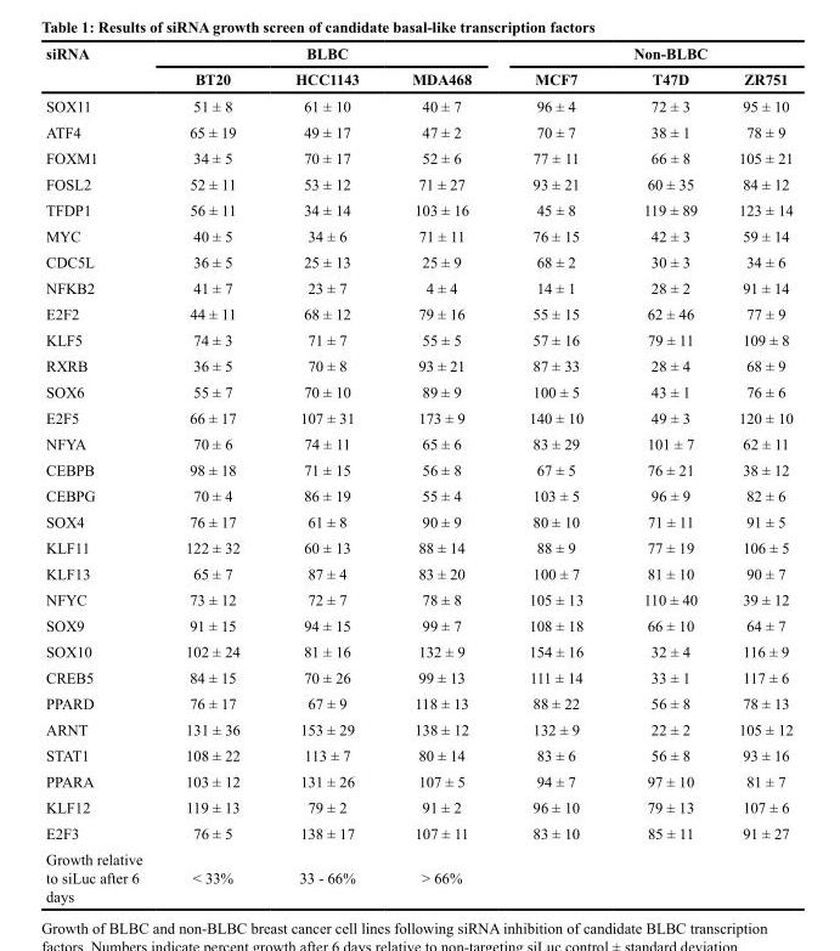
<table><thead><tr><td rowspan="2">siRNA</td><td colspan="3">BLBC</td><td colspan="3">Non-BLBC</td></tr><tr><td>BT20</td><td>HCC1143</td><td>MDA468</td><td>MCF7</td><td>T47D</td><td>ZR751</td></tr></thead><tbody><tr><td>SOX11</td><td>51 ± 8</td><td>61 ± 10</td><td>40 ± 7</td><td>96 ± 4</td><td>72 ± 3</td><td>95 ± 10</td></tr><tr><td>ATF4</td><td>65 ± 19</td><td>49 ± 17</td><td>47 ± 2</td><td>70 ± 7</td><td>38 ± 1</td><td>78 ± 9</td></tr><tr><td>FOXM1</td><td>34 ± 5</td><td>70 ± 17</td><td>52 ± 6</td><td>77 ± 11</td><td>66 ± 8</td><td>105 ± 21</td></tr><tr><td>FOSL2</td><td>52 ± 11</td><td>53 ± 12</td><td>71 ± 27</td><td>93 ± 21</td><td>60 ± 35</td><td>84 ± 12</td></tr><tr><td>TFDP1</td><td>56 ± 11</td><td>34 ± 14</td><td>103 ± 16</td><td>45 ± 8</td><td>119 ± 89</td><td>123 ± 14</td></tr><tr><td>MYC</td><td>40 ± 5</td><td>34 ± 6</td><td>71 ± 11</td><td>76 ± 15</td><td>42 ± 3</td><td>59 ± 14</td></tr><tr><td>CDC5L</td><td>36 ± 5</td><td>25 ± 13</td><td>25 ± 9</td><td>68 ± 2</td><td>30 ± 3</td><td>34 ± 6</td></tr><tr><td>NFKB2</td><td>41 ± 7</td><td>23 ± 7</td><td>4 ± 4</td><td>14 ± 1</td><td>28 ± 2</td><td>91 ± 14</td></tr><tr><td>E2F2</td><td>44 ± 11</td><td>68 ± 12</td><td>79 ± 16</td><td>55 ± 15</td><td>62 ± 46</td><td>77 ± 9</td></tr><tr><td>KLF5</td><td>74 ± 3</td><td>71 ± 7</td><td>55 ± 5</td><td>57 ± 16</td><td>79 ± 11</td><td>109 ± 8</td></tr><tr><td>RXRB</td><td>36 ± 5</td><td>70 ± 8</td><td>93 ± 21</td><td>87 ± 33</td><td>28 ± 4</td><td>68 ± 9</td></tr><tr><td>SOX6</td><td>55 ± 7</td><td>70 ± 10</td><td>89 ± 9</td><td>100 ± 5</td><td>43 ± 1</td><td>76 ± 6</td></tr><tr><td>E2F5</td><td>66 ± 17</td><td>107 ± 31</td><td>173 ± 9</td><td>140 ± 10</td><td>49 ± 3</td><td>120 ± 10</td></tr><tr><td>NFYA</td><td>70 ± 6</td><td>74 ± 11</td><td>65 ± 6</td><td>83 ± 29</td><td>101 ± 7</td><td>62 ± 11</td></tr><tr><td>CEBPB</td><td>98 ± 18</td><td>71 ± 15</td><td>56 ± 8</td><td>67 ± 5</td><td>76 ± 21</td><td>38 ± 12</td></tr><tr><td>CEBPG</td><td>70 ± 4</td><td>86 ± 19</td><td>55 ± 4</td><td>103 ± 5</td><td>96 ± 9</td><td>82 ± 6</td></tr><tr><td>SOX4</td><td>76 ± 17</td><td>61 ± 8</td><td>90 ± 9</td><td>80 ± 10</td><td>71 ± 11</td><td>91 ± 5</td></tr><tr><td>KLF11</td><td>122 ± 32</td><td>60 ± 13</td><td>88 ± 14</td><td>88 ± 9</td><td>77 ± 19</td><td>106 ± 5</td></tr><tr><td>KLF13</td><td>65 ± 7</td><td>87 ± 4</td><td>83 ± 20</td><td>100 ± 7</td><td>81 ± 10</td><td>90 ± 7</td></tr><tr><td>NFYC</td><td>73 ± 12</td><td>72 ± 7</td><td>78 ± 8</td><td>105 ± 13</td><td>110 ± 40</td><td>39 ± 12</td></tr><tr><td>SOX9</td><td>91 ± 15</td><td>94 ± 15</td><td>99 ± 7</td><td>108 ± 18</td><td>66 ± 10</td><td>64 ± 7</td></tr><tr><td>SOX10</td><td>102 ± 24</td><td>81 ± 16</td><td>132 ± 9</td><td>154 ± 16</td><td>32 ± 4</td><td>116 ± 9</td></tr><tr><td>CREB5</td><td>84 ± 15</td><td>70 ± 26</td><td>99 ± 13</td><td>111 ± 14</td><td>33 ± 1</td><td>117 ± 6</td></tr><tr><td>PPARD</td><td>76 ± 17</td><td>67 ± 9</td><td>118 ± 13</td><td>88 ± 22</td><td>56 ± 8</td><td>78 ± 13</td></tr><tr><td>ARNT</td><td>131 ± 36</td><td>153 ± 29</td><td>138 ± 12</td><td>132 ± 9</td><td>22 ± 2</td><td>105 ± 12</td></tr><tr><td>STAT1</td><td>108 ± 22</td><td>113 ± 7</td><td>80 ± 14</td><td>83 ± 6</td><td>56 ± 8</td><td>93 ± 16</td></tr><tr><td>PPARA</td><td>103 ± 12</td><td>131 ± 26</td><td>107 ± 5</td><td>94 ± 7</td><td>97 ± 10</td><td>81 ± 7</td></tr><tr><td>KLF12</td><td>119 ± 13</td><td>79 ± 2</td><td>91 ± 2</td><td>96 ± 10</td><td>79 ± 13</td><td>107 ± 6</td></tr><tr><td>E2F3</td><td>76 ± 5</td><td>138 ± 17</td><td>107 ± 11</td><td>83 ± 10</td><td>85 ± 11</td><td>91 ± 27</td></tr><tr><td>Growth relative to siLuc after 6 days</td><td>&lt; 33%</td><td>33 - 66%</td><td>&gt; 66%</td><td></td><td></td><td></td></tr></tbody></table>